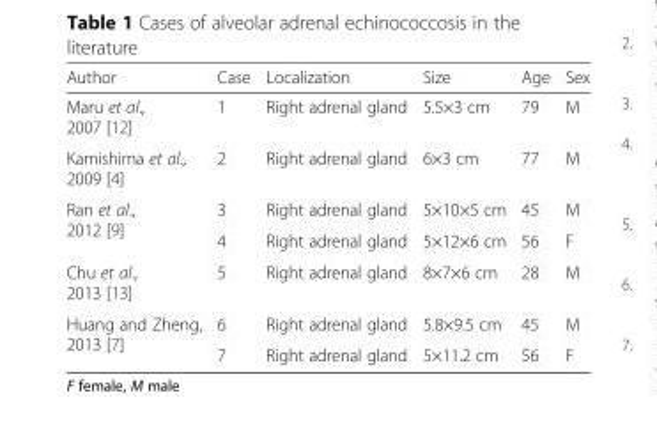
<table><thead><tr><td>Author</td><td>Case</td><td>Localization</td><td>Size</td><td>Age</td><td>Sex</td></tr></thead><tbody><tr><td>Maru et al., 2007 [12]</td><td>1</td><td>Right adrenal gland</td><td>5.5×3 cm</td><td>79</td><td>M</td></tr><tr><td>Kamishima et al., 2009 [4]</td><td>2</td><td>Right adrenal gland</td><td>6×3 cm</td><td>77</td><td>M</td></tr><tr><td rowspan="2">Ran et al., 2012 [9]</td><td>3</td><td>Right adrenal gland</td><td>5×10×5 cm</td><td>45</td><td>M</td></tr><tr><td>4</td><td>Right adrenal gland</td><td>5×12×6 cm</td><td>56</td><td>F</td></tr><tr><td>Chu et al., 2013 [13]</td><td>5</td><td>Right adrenal gland</td><td>8×7×6 cm</td><td>28</td><td>M</td></tr><tr><td rowspan="2">Huang and Zheng, 2013 [7]</td><td>6</td><td>Right adrenal gland</td><td>5.8×9.5 cm</td><td>45</td><td>M</td></tr><tr><td>7</td><td>Right adrenal gland</td><td>5×11.2 cm</td><td>56</td><td>F</td></tr></tbody></table>